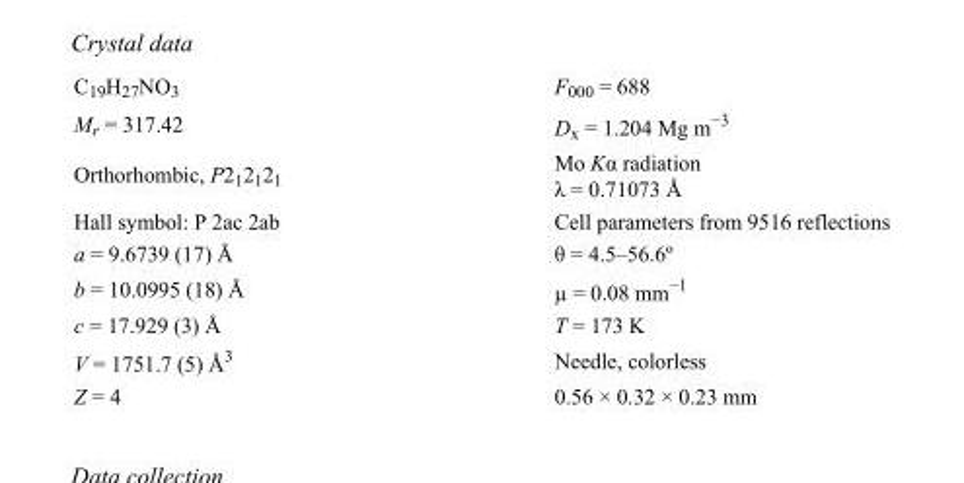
<table><tbody><tr><td>C<sub>19</sub>H<sub>27</sub>NO<sub>3</sub></td><td>F000 = 688</td></tr><tr><td>M<sub>r</sub> = 317.42</td><td>D<sub>x</sub> = 1.204 Mg m<sup>−3</sup></td></tr><tr><td>Orthorhombic, P2<sub>1</sub>2<sub>1</sub>2<sub>1</sub></td><td>Mo Kα radiation λ = 0.71073 Å</td></tr><tr><td>Hall symbol: P 2ac 2ab</td><td>Cell parameters from 9516 reflections</td></tr><tr><td>a = 9.6739 (17) Å</td><td>θ = 4.5–56.6º</td></tr><tr><td>b = 10.0995 (18) Å</td><td>µ = 0.08 mm<sup>−1</sup></td></tr><tr><td>c = 17.929 (3) Å</td><td>T = 173 K</td></tr><tr><td>V = 1751.7 (5) Å<sup>3</sup></td><td>Needle, colorless</td></tr><tr><td>Z = 4</td><td>0.56 × 0.32 × 0.23 mm</td></tr></tbody></table>